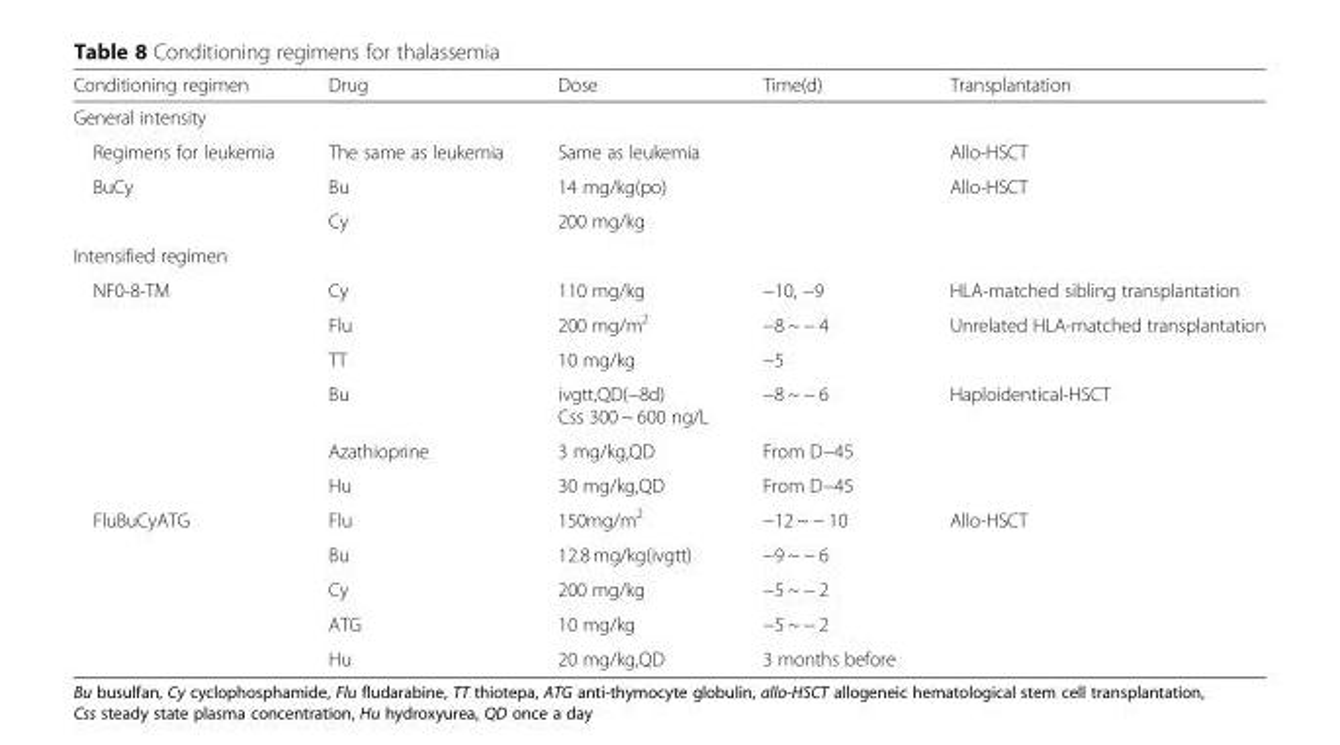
<table><thead><tr><td>Conditioning regimen</td><td>Drug</td><td>Dose</td><td>Time(d)</td><td>Transplantation</td></tr></thead><tbody><tr><td colspan="5">General intensity</td></tr><tr><td>Regimens for leukemia</td><td>The same as leukemia</td><td>Same as leukemia</td><td></td><td>Allo-HSCT</td></tr><tr><td rowspan="2">BuCy</td><td>Bu</td><td>14 mg/kg(po)</td><td></td><td rowspan="2">Allo-HSCT</td></tr><tr><td>Cy</td><td>200 mg/kg</td><td></td></tr><tr><td colspan="5">Intensified regimen</td></tr><tr><td rowspan="6">NF0-8-TM</td><td>Cy</td><td>110 mg/kg</td><td>−10, −9</td><td>HLA-matched sibling transplantation</td></tr><tr><td>Flu</td><td>200 mg/m<sup>2</sup></td><td>−8 ~ − 4</td><td rowspan="2">Unrelated HLA-matched transplantation</td></tr><tr><td>TT</td><td>10 mg/kg</td><td>−5</td></tr><tr><td>Bu</td><td>ivgtt,QD(−8d) Css 300 ~ 600 ng/L</td><td>−8 ~ − 6</td><td rowspan="3">Haploidentical-HSCT</td></tr><tr><td>Azathioprine</td><td>3 mg/kg,QD</td><td>From D−45</td></tr><tr><td>Hu</td><td>30 mg/kg,QD</td><td>From D−45</td></tr><tr><td rowspan="5">FluBuCyATG</td><td>Flu</td><td>150mg/m<sup>2</sup></td><td>−12 ~ − 10</td><td rowspan="5">Allo-HSCT</td></tr><tr><td>Bu</td><td>12.8 mg/kg(ivgtt)</td><td>−9 ~ − 6</td></tr><tr><td>Cy</td><td>200 mg/kg</td><td>−5 ~ − 2</td></tr><tr><td>ATG</td><td>10 mg/kg</td><td>−5 ~ − 2</td></tr><tr><td>Hu</td><td>20 mg/kg,QD</td><td>3 months before</td></tr></tbody></table>